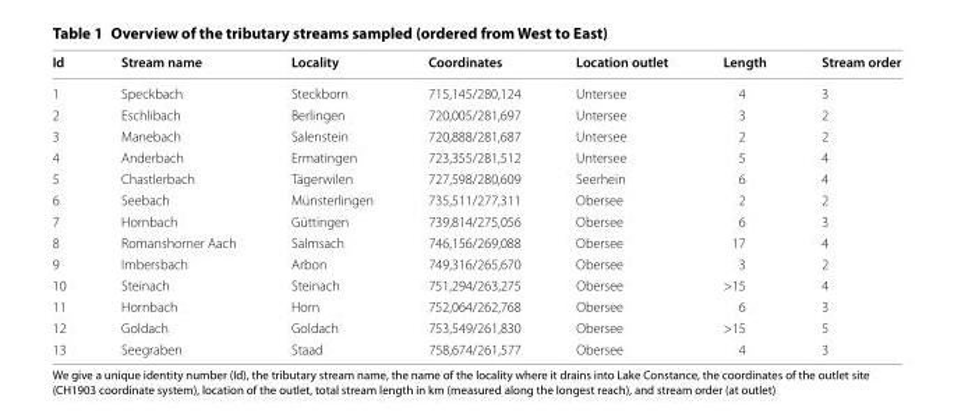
<table><thead><tr><td>Id</td><td>Stream name</td><td>Locality</td><td>Coordinates</td><td>Location outlet</td><td>Length</td><td>Stream order</td></tr></thead><tbody><tr><td>1</td><td>Speckbach</td><td>Steckborn</td><td>715,145/280,124</td><td>Untersee</td><td>4</td><td>3</td></tr><tr><td>2</td><td>Eschlibach</td><td>Berlingen</td><td>720,005/281,697</td><td>Untersee</td><td>3</td><td>2</td></tr><tr><td>3</td><td>Manebach</td><td>Salenstein</td><td>720,888/281,687</td><td>Untersee</td><td>2</td><td>2</td></tr><tr><td>4</td><td>Anderbach</td><td>Ermatingen</td><td>723,355/281,512</td><td>Untersee</td><td>5</td><td>4</td></tr><tr><td>5</td><td>Chastlerbach</td><td>Tägerwilen</td><td>727,598/280,609</td><td>Seerhein</td><td>6</td><td>4</td></tr><tr><td>6</td><td>Seebach</td><td>Münsterlingen</td><td>735,511/277,311</td><td>Obersee</td><td>2</td><td>2</td></tr><tr><td>7</td><td>Hornbach</td><td>Güttingen</td><td>739,814/275,056</td><td>Obersee</td><td>6</td><td>3</td></tr><tr><td>8</td><td>Romanshorner Aach</td><td>Salmsach</td><td>746,156/269,088</td><td>Obersee</td><td>17</td><td>4</td></tr><tr><td>9</td><td>Imbersbach</td><td>Arbon</td><td>749,316/265,670</td><td>Obersee</td><td>3</td><td>2</td></tr><tr><td>10</td><td>Steinach</td><td>Steinach</td><td>751,294/263,275</td><td>Obersee</td><td>&gt;15</td><td>4</td></tr><tr><td>11</td><td>Hornbach</td><td>Horn</td><td>752,064/262,768</td><td>Obersee</td><td>6</td><td>3</td></tr><tr><td>12</td><td>Goldach</td><td>Goldach</td><td>753,549/261,830</td><td>Obersee</td><td>&gt;15</td><td>5</td></tr><tr><td>13</td><td>Seegraben</td><td>Staad</td><td>758,674/261,577</td><td>Obersee</td><td>4</td><td>3</td></tr></tbody></table>